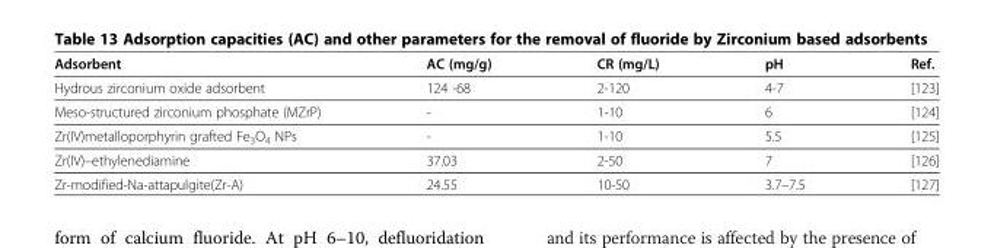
<table><thead><tr><td>Adsorbent</td><td>AC (mg/g)</td><td>CR (mg/L)</td><td>pH</td><td>Ref.</td></tr></thead><tbody><tr><td>Hydrous zirconium oxide adsorbent</td><td>124 -68</td><td>2-120</td><td>4-7</td><td>[123]</td></tr><tr><td>Meso-structured zirconium phosphate (MZrP)</td><td>-</td><td>1-10</td><td>6</td><td>[124]</td></tr><tr><td>Zr(IV)metalloporphyrin grafted Fe<sub>3</sub>O<sub>4</sub> NPs</td><td>-</td><td>1-10</td><td>5.5</td><td>[125]</td></tr><tr><td>Zr(IV)–ethylenediamine</td><td>37.03</td><td>2-50</td><td>7</td><td>[126]</td></tr><tr><td>Zr-modified-Na-attapulgite(Zr-A)</td><td>24.55</td><td>10-50</td><td>3.7–7.5</td><td>[127]</td></tr></tbody></table>